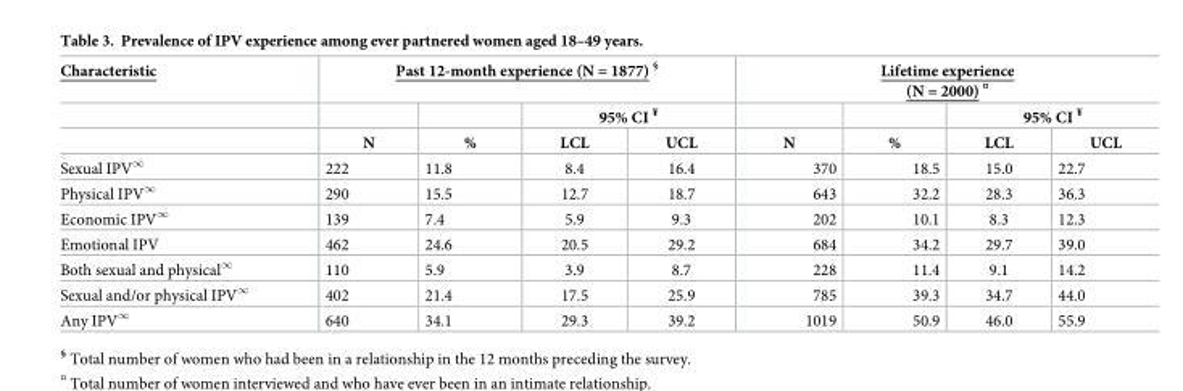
<table><thead><tr><td rowspan="3">Characteristic</td><td colspan="4">Past 12-month experience (N = 1877) <sup>§</sup></td><td colspan="4">Lifetime experience (N = 2000) <sup>¤</sup></td></tr><tr><td rowspan="2">N</td><td rowspan="2">%</td><td colspan="2">95% CI <sup>¥</sup></td><td rowspan="2">N</td><td rowspan="2">%</td><td colspan="2">95% CI <sup>¥</sup></td></tr><tr><td>LCL</td><td>UCL</td><td>LCL</td><td>UCL</td></tr></thead><tbody><tr><td>Sexual IPV<sup>∞</sup></td><td>222</td><td>11.8</td><td>8.4</td><td>16.4</td><td>370</td><td>18.5</td><td>15.0</td><td>22.7</td></tr><tr><td>Physical IPV<sup>∞</sup></td><td>290</td><td>15.5</td><td>12.7</td><td>18.7</td><td>643</td><td>32.2</td><td>28.3</td><td>36.3</td></tr><tr><td>Economic IPV<sup>∞</sup></td><td>139</td><td>7.4</td><td>5.9</td><td>9.3</td><td>202</td><td>10.1</td><td>8.3</td><td>12.3</td></tr><tr><td>Emotional IPV</td><td>462</td><td>24.6</td><td>20.5</td><td>29.2</td><td>684</td><td>34.2</td><td>29.7</td><td>39.0</td></tr><tr><td>Both sexual and physical<sup>∞</sup></td><td>110</td><td>5.9</td><td>3.9</td><td>8.7</td><td>228</td><td>11.4</td><td>9.1</td><td>14.2</td></tr><tr><td>Sexual and/or physical IPV<sup>∞</sup></td><td>402</td><td>21.4</td><td>17.5</td><td>25.9</td><td>785</td><td>39.3</td><td>34.7</td><td>44.0</td></tr><tr><td>Any IPV<sup>∞</sup></td><td>640</td><td>34.1</td><td>29.3</td><td>39.2</td><td>1019</td><td>50.9</td><td>46.0</td><td>55.9</td></tr></tbody></table>